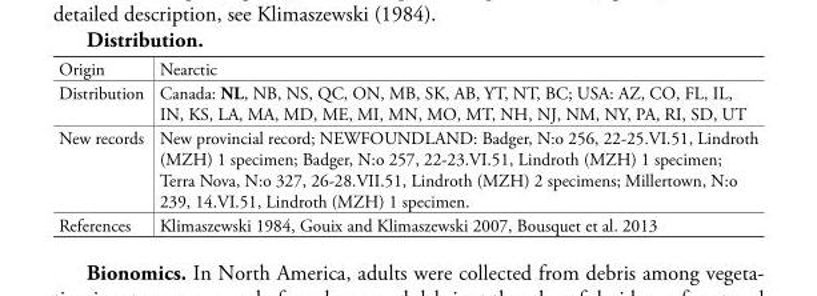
<table><tbody><tr><td>Origin</td><td>Nearctic</td></tr><tr><td>Distribution</td><td>Canada: NL, NB, NS, QC, ON, MB, SK, AB, YT, NT, BC; USA: AZ, CO, FL, IL, IN, KS, LA, MA, MD, ME, MI, MN, MO, MT, NH, NJ, NM, NY, PA, RI, SD, UT</td></tr><tr><td>New records</td><td>New provincial record; NEWFOUNDLAND: Badger, N:o 256, 22-25.VI.51, Lindroth (MZH) 1 specimen; Badger, N:o 257, 22-23.VI.51, Lindroth (MZH) 1 specimen; Terra Nova, N:o 327, 26-28.VII.51, Lindroth (MZH) 2 specimens; Millertown, N:o 239, 14.VI.51, Lindroth (MZH) 1 specimen.</td></tr><tr><td>References</td><td>Klimaszewski 1984, Gouix and Klimaszewski 2007, Bousquet et al. 2013</td></tr></tbody></table>